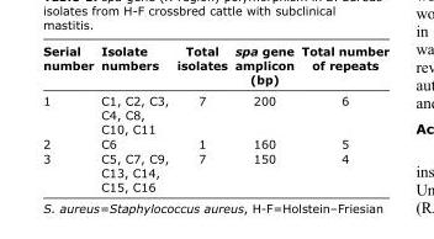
<table><thead><tr><td>Serial number</td><td>Isolate numbers</td><td>Total isolates</td><td>spa gene amplicon (bp)</td><td>Total number of repeats</td></tr></thead><tbody><tr><td>1</td><td>C1, C2, C3, C4, C8, C10, C11</td><td>7</td><td>200</td><td>6</td></tr><tr><td>2</td><td>C6</td><td>1</td><td>160</td><td>5</td></tr><tr><td>3</td><td>C5, C7, C9, C13, C14, C15, C16</td><td>7</td><td>150</td><td>4</td></tr></tbody></table>